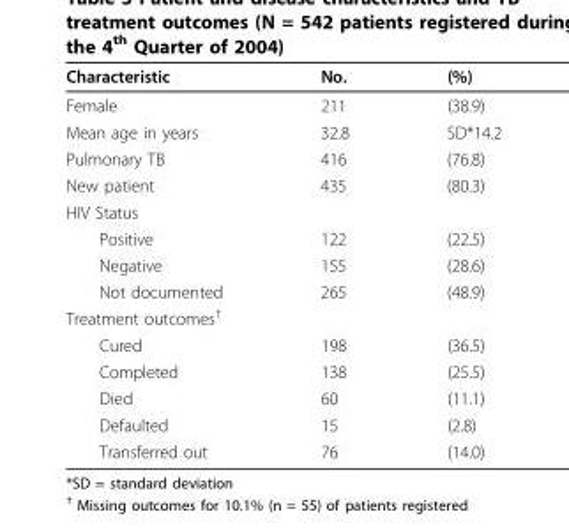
<table><thead><tr><td>Characteristic</td><td>No.</td><td>(%)</td></tr></thead><tbody><tr><td>Female</td><td>211</td><td>(38.9)</td></tr><tr><td>Mean age in years</td><td>32.8</td><td>SD*14.2</td></tr><tr><td>Pulmonary TB</td><td>416</td><td>(76.8)</td></tr><tr><td>New patient</td><td>435</td><td>(80.3)</td></tr><tr><td colspan="3">HIV Status</td></tr><tr><td>Positive</td><td>122</td><td>(22.5)</td></tr><tr><td>Negative</td><td>155</td><td>(28.6)</td></tr><tr><td>Not documented</td><td>265</td><td>(48.9)</td></tr><tr><td colspan="3">Treatment outcomes<sup>†</sup></td></tr><tr><td>Cured</td><td>198</td><td>(36.5)</td></tr><tr><td>Completed</td><td>138</td><td>(25.5)</td></tr><tr><td>Died</td><td>60</td><td>(11.1)</td></tr><tr><td>Defaulted</td><td>15</td><td>(2.8)</td></tr><tr><td>Transferred out</td><td>76</td><td>(14.0)</td></tr></tbody></table>